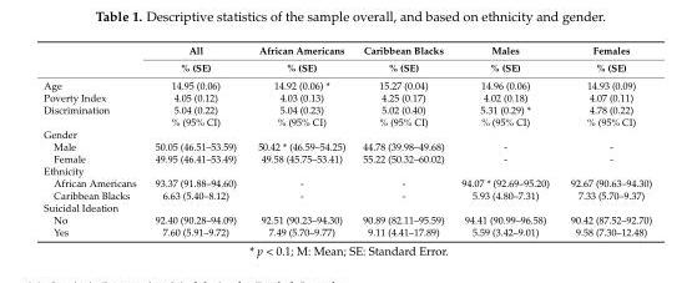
<table><thead><tr><td rowspan="2"></td><td rowspan="2">All % (SE)</td><td rowspan="2">African Americans % (SE)</td><td rowspan="2">Caribbean Blacks % (SE)</td><td rowspan="2">Males % (SE)</td><td rowspan="2">Females % (SE)</td></tr><tr></tr></thead><tbody><tr><td>Age</td><td>14.95 (0.06)</td><td>14.92 (0.06) *</td><td>15.27 (0.04)</td><td>14.96 (0.06)</td><td>14.93 (0.09)</td></tr><tr><td>Poverty Index</td><td>4.05 (0.12)</td><td>4.03 (0.13)</td><td>4.25 (0.17)</td><td>4.02 (0.18)</td><td>4.07 (0.11)</td></tr><tr><td rowspan="2">Discrimination</td><td>5.04 (0.22)</td><td>5.04 (0.23)</td><td>5.02 (0.40)</td><td>5.31 (0.29) *</td><td>4.78 (0.22)</td></tr><tr><td>% (95% CI)</td><td>% (95% CI)</td><td>% (95% CI)</td><td>% (95% CI)</td><td>% (95% CI)</td></tr><tr><td colspan="6">Gender</td></tr><tr><td>Male</td><td>50.05 (46.51–53.59)</td><td>50.42 * (46.59–54.25)</td><td>44.78 (39.98–49.68)</td><td>-</td><td>-</td></tr><tr><td>Female</td><td>49.95 (46.41–53.49)</td><td>49.58 (45.75–53.41)</td><td>55.22 (50.32–60.02)</td><td>-</td><td>-</td></tr><tr><td colspan="6">Ethnicity</td></tr><tr><td>African Americans</td><td>93.37 (91.88–94.60)</td><td>-</td><td>-</td><td>94.07 * (92.69–95.20)</td><td>92.67 (90.63–94.30)</td></tr><tr><td>Caribbean Blacks</td><td>6.63 (5.40–8.12)</td><td>-</td><td>-</td><td>5.93 (4.80–7.31)</td><td>7.33 (5.70–9.37)</td></tr><tr><td colspan="6">Suicidal Ideation</td></tr><tr><td>No</td><td>92.40 (90.28–94.09)</td><td>92.51 (90.23–94.30)</td><td>90.89 (82.11–95.59)</td><td>94.41 (90.99–96.58)</td><td>90.42 (87.52–92.70)</td></tr><tr><td>Yes</td><td>7.60 (5.91–9.72)</td><td>7.49 (5.70–9.77)</td><td>9.11 (4.41–17.89)</td><td>5.59 (3.42–9.01)</td><td>9.58 (7.30–12.48)</td></tr></tbody></table>